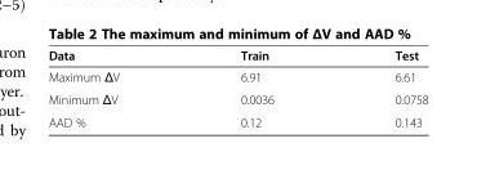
<table><thead><tr><td>Data</td><td>Train</td><td>Test</td></tr></thead><tbody><tr><td>Maximum ΔV</td><td>6.91</td><td>6.61</td></tr><tr><td>Minimum ΔV</td><td>0.0036</td><td>0.0758</td></tr><tr><td>AAD %</td><td>0.12</td><td>0.143</td></tr></tbody></table>